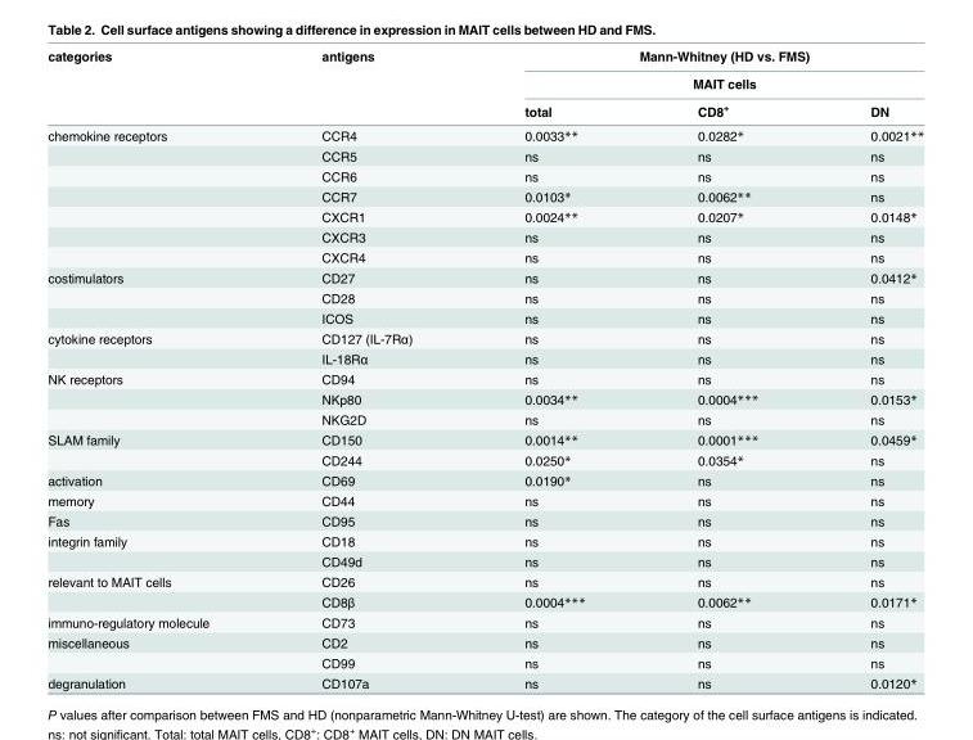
<table><thead><tr><td rowspan="3">categories</td><td rowspan="3">antigens</td><td rowspan="2" colspan="3">Mann-Whitney (HD vs. FMS) MAIT cells</td></tr><tr></tr><tr><td>total</td><td>CD8<sup>+</sup></td><td>DN</td></tr></thead><tbody><tr><td rowspan="7">chemokine receptors</td><td>CCR4</td><td>0.0033**</td><td>0.0282*</td><td>0.0021**</td></tr><tr><td>CCR5</td><td>ns</td><td>ns</td><td>ns</td></tr><tr><td>CCR6</td><td>ns</td><td>ns</td><td>ns</td></tr><tr><td>CCR7</td><td>0.0103*</td><td>0.0062**</td><td>ns</td></tr><tr><td>CXCR1</td><td>0.0024**</td><td>0.0207*</td><td>0.0148*</td></tr><tr><td>CXCR3</td><td>ns</td><td>ns</td><td>ns</td></tr><tr><td>CXCR4</td><td>ns</td><td>ns</td><td>ns</td></tr><tr><td rowspan="3">costimulators</td><td>CD27</td><td>ns</td><td>ns</td><td>0.0412*</td></tr><tr><td>CD28</td><td>ns</td><td>ns</td><td>ns</td></tr><tr><td>ICOS</td><td>ns</td><td>ns</td><td>ns</td></tr><tr><td rowspan="2">cytokine receptors</td><td>CD127 (IL-7Rα)</td><td>ns</td><td>ns</td><td>ns</td></tr><tr><td>IL-18Rα</td><td>ns</td><td>ns</td><td>ns</td></tr><tr><td rowspan="3">NK receptors</td><td>CD94</td><td>ns</td><td>ns</td><td>ns</td></tr><tr><td>NKp80</td><td>0.0034**</td><td>0.0004***</td><td>0.0153*</td></tr><tr><td>NKG2D</td><td>ns</td><td>ns</td><td>ns</td></tr><tr><td rowspan="2">SLAM family</td><td>CD150</td><td>0.0014**</td><td>0.0001***</td><td>0.0459*</td></tr><tr><td>CD244</td><td>0.0250*</td><td>0.0354*</td><td>ns</td></tr><tr><td>activation</td><td>CD69</td><td>0.0190*</td><td>ns</td><td>ns</td></tr><tr><td>memory</td><td>CD44</td><td>ns</td><td>ns</td><td>ns</td></tr><tr><td>Fas</td><td>CD95</td><td>ns</td><td>ns</td><td>ns</td></tr><tr><td rowspan="2">integrin family</td><td>CD18</td><td>ns</td><td>ns</td><td>ns</td></tr><tr><td>CD49d</td><td>ns</td><td>ns</td><td>ns</td></tr><tr><td rowspan="2">relevant to MAIT cells</td><td>CD26</td><td>ns</td><td>ns</td><td>ns</td></tr><tr><td>CD8β</td><td>0.0004***</td><td>0.0062**</td><td>0.0171*</td></tr><tr><td>immuno-regulatory molecule</td><td>CD73</td><td>ns</td><td>ns</td><td>ns</td></tr><tr><td rowspan="2">miscellaneous</td><td>CD2</td><td>ns</td><td>ns</td><td>ns</td></tr><tr><td>CD99</td><td>ns</td><td>ns</td><td>ns</td></tr><tr><td>degranulation</td><td>CD107a</td><td>ns</td><td>ns</td><td>0.0120*</td></tr></tbody></table>